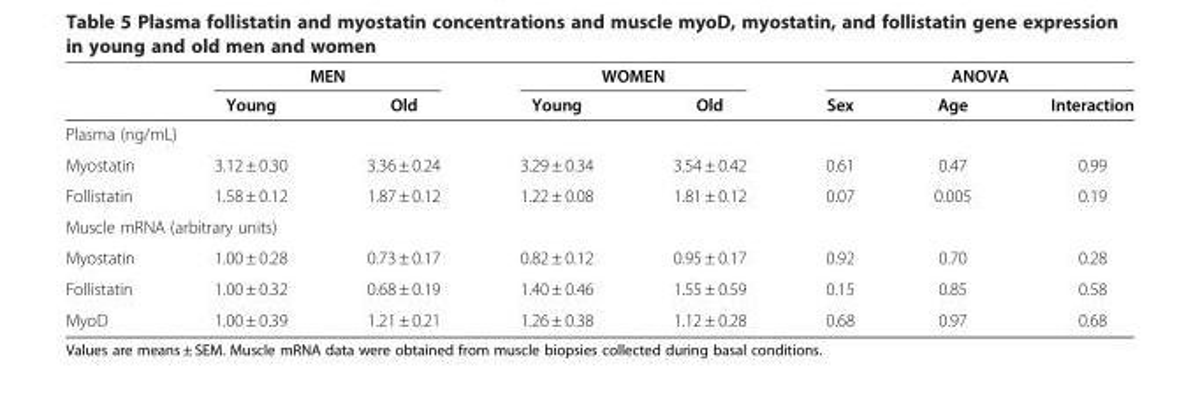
<table><thead><tr><td rowspan="2"></td><td colspan="2">MEN</td><td colspan="2">WOMEN</td><td colspan="3">ANOVA</td></tr><tr><td>Young</td><td>Old</td><td>Young</td><td>Old</td><td>Sex</td><td>Age</td><td>Interaction</td></tr></thead><tbody><tr><td colspan="8">Plasma (ng/mL)</td></tr><tr><td>Myostatin</td><td>3.12 ± 0.30</td><td>3.36 ± 0.24</td><td>3.29 ± 0.34</td><td>3.54 ± 0.42</td><td>0.61</td><td>0.47</td><td>0.99</td></tr><tr><td>Follistatin</td><td>1.58 ± 0.12</td><td>1.87 ± 0.12</td><td>1.22 ± 0.08</td><td>1.81 ± 0.12</td><td>0.07</td><td>0.005</td><td>0.19</td></tr><tr><td colspan="8">Muscle mRNA (arbitrary units)</td></tr><tr><td>Myostatin</td><td>1.00 ± 0.28</td><td>0.73 ± 0.17</td><td>0.82 ± 0.12</td><td>0.95 ± 0.17</td><td>0.92</td><td>0.70</td><td>0.28</td></tr><tr><td>Follistatin</td><td>1.00 ± 0.32</td><td>0.68 ± 0.19</td><td>1.40 ± 0.46</td><td>1.55 ± 0.59</td><td>0.15</td><td>0.85</td><td>0.58</td></tr><tr><td>MyoD</td><td>1.00 ± 0.39</td><td>1.21 ± 0.21</td><td>1.26 ± 0.38</td><td>1.12 ± 0.28</td><td>0.68</td><td>0.97</td><td>0.68</td></tr></tbody></table>